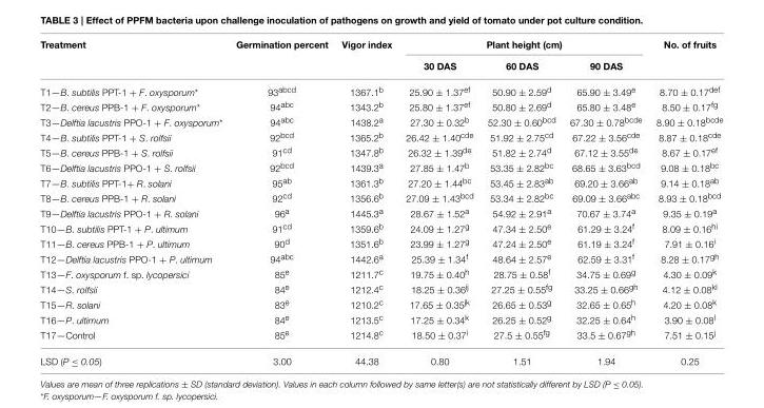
<table><thead><tr><td rowspan="2">Treatment</td><td rowspan="2">Germination percent</td><td rowspan="2">Vigor index</td><td colspan="3">Plant height (cm)</td><td rowspan="2">No. of fruits</td></tr><tr><td>30 DAS</td><td>60 DAS</td><td>90 DAS</td></tr></thead><tbody><tr><td>T1—B. subtilis PPT-1 + F. oxysporum*</td><td>93<sup>abcd</sup></td><td>1367.1<sup>b</sup></td><td>25.90 ± 1.37<sup>ef</sup></td><td>50.90 ± 2.59<sup>d</sup></td><td>65.90 ± 3.49<sup>e</sup></td><td>8.70 ± 0.17<sup>def</sup></td></tr><tr><td>T2—B. cereus PPB-1 + F. oxysporum*</td><td>94<sup>abc</sup></td><td>1343.2<sup>b</sup></td><td>25.80 ± 1.37<sup>ef</sup></td><td>50.80 ± 2.69<sup>d</sup></td><td>65.80 ± 3.48<sup>e</sup></td><td>8.50 ± 0.17<sup>fg</sup></td></tr><tr><td>T3—Delftia lacustris PPO-1 + F. oxysporum*</td><td>94<sup>abc</sup></td><td>1438.2<sup>a</sup></td><td>27.30 ± 0.32<sup>b</sup></td><td>52.30 ± 0.60<sup>bcd</sup></td><td>67.30 ± 0.78<sup>bcde</sup></td><td>8.90 ± 0.18<sup>bcde</sup></td></tr><tr><td>T4—B. subtilis PPT-1 + S. rolfsii</td><td>92<sup>bcd</sup></td><td>1365.2<sup>b</sup></td><td>26.42 ± 1.40<sup>cde</sup></td><td>51.92 ± 2.75<sup>cd</sup></td><td>67.22 ± 3.56<sup>cde</sup></td><td>8.87 ± 0.18<sup>cde</sup></td></tr><tr><td>T5—B. cereus PPB-1 + S. rolfsii</td><td>91<sup>cd</sup></td><td>1347.8<sup>b</sup></td><td>26.32 ± 1.39<sup>de</sup></td><td>51.82 ± 2.74<sup>d</sup></td><td>67.12 ± 3.55<sup>de</sup></td><td>8.67 ± 0.17<sup>ef</sup></td></tr><tr><td>T6—Delftia lacustris PPO-1 + S. rolfsii</td><td>92<sup>bcd</sup></td><td>1439.3<sup>a</sup></td><td>27.85 ± 1.47<sup>b</sup></td><td>53.35 ± 2.82<sup>bc</sup></td><td>68.65 ± 3.63<sup>bcd</sup></td><td>9.08 ± 0.18<sup>bc</sup></td></tr><tr><td>T7—B. subtilis PPT-1+ R. solani</td><td>95<sup>ab</sup></td><td>1361.3<sup>b</sup></td><td>27.20 ± 1.44<sup>bc</sup></td><td>53.45 ± 2.83<sup>ab</sup></td><td>69.20 ± 3.66<sup>ab</sup></td><td>9.14 ± 0.18<sup>ab</sup></td></tr><tr><td>T8—B. cereus PPB-1 + R. solani</td><td>92<sup>cd</sup></td><td>1356.6<sup>b</sup></td><td>27.09 ± 1.43<sup>bcd</sup></td><td>53.34 ± 2.82<sup>bc</sup></td><td>69.09 ± 3.66<sup>abc</sup></td><td>8.93 ± 0.18<sup>bcd</sup></td></tr><tr><td>T9—Delftia lacustris PPO-1 + R. solani</td><td>96<sup>a</sup></td><td>1445.3<sup>a</sup></td><td>28.67 ± 1.52<sup>a</sup></td><td>54.92 ± 2.91<sup>a</sup></td><td>70.67 ± 3.74<sup>a</sup></td><td>9.35 ± 0.19<sup>a</sup></td></tr><tr><td>T10—B. subtilis PPT-1 + P. ultimum</td><td>91<sup>cd</sup></td><td>1359.6<sup>b</sup></td><td>24.09 ± 1.27<sup>g</sup></td><td>47.34 ± 2.50<sup>e</sup></td><td>61.29 ± 3.24<sup>f</sup></td><td>8.09 ± 0.16<sup>hi</sup></td></tr><tr><td>T11—B. cereus PPB-1 + P. ultimum</td><td>90<sup>d</sup></td><td>1351.6<sup>b</sup></td><td>23.99 ± 1.27<sup>g</sup></td><td>47.24 ± 2.50<sup>e</sup></td><td>61.19 ± 3.24<sup>f</sup></td><td>7.91 ± 0.16<sup>i</sup></td></tr><tr><td>T12—Delftia lacustris PPO-1 + P. ultimum</td><td>94<sup>abc</sup></td><td>1442.6<sup>a</sup></td><td>25.39 ± 1.34<sup>f</sup></td><td>48.64 ± 2.57<sup>e</sup></td><td>62.59 ± 3.31<sup>f</sup></td><td>8.28 ± 0.17<sup>gh</sup></td></tr><tr><td>T13—F. oxysporum f. sp. lycopersici</td><td>85<sup>e</sup></td><td>1211.7<sup>c</sup></td><td>19.75 ± 0.40<sup>h</sup></td><td>28.75 ± 0.58<sup>f</sup></td><td>34.75 ± 0.69<sup>g</sup></td><td>4.30 ± 0.09<sup>k</sup></td></tr><tr><td>T14—S. rolfsii</td><td>84<sup>e</sup></td><td>1212.4<sup>c</sup></td><td>18.25 ± 0.36<sup>ij</sup></td><td>27.25 ± 0.55<sup>fg</sup></td><td>33.25 ± 0.66<sup>gh</sup></td><td>4.12 ± 0.08<sup>kl</sup></td></tr><tr><td>T15—R. solani</td><td>83<sup>e</sup></td><td>1210.2<sup>c</sup></td><td>17.65 ± 0.35<sup>jk</sup></td><td>26.65 ± 0.53<sup>g</sup></td><td>32.65 ± 0.65<sup>h</sup></td><td>4.20 ± 0.08<sup>k</sup></td></tr><tr><td>T16—P. ultimum</td><td>84<sup>e</sup></td><td>1213.5<sup>c</sup></td><td>17.25 ± 0.34<sup>k</sup></td><td>26.25 ± 0.52<sup>g</sup></td><td>32.25 ± 0.64<sup>h</sup></td><td>3.90 ± 0.08<sup>l</sup></td></tr><tr><td>T17—Control</td><td>85<sup>e</sup></td><td>1214.8<sup>c</sup></td><td>18.50 ± 0.37<sup>i</sup></td><td>27.5 ± 0.55<sup>fg</sup></td><td>33.5 ± 0.67<sup>gh</sup></td><td>7.51 ± 0.15<sup>j</sup></td></tr><tr><td>LSD (P ≤ 0.05)</td><td>3.00</td><td>44.38</td><td>0.80</td><td>1.51</td><td>1.94</td><td>0.25</td></tr></tbody></table>